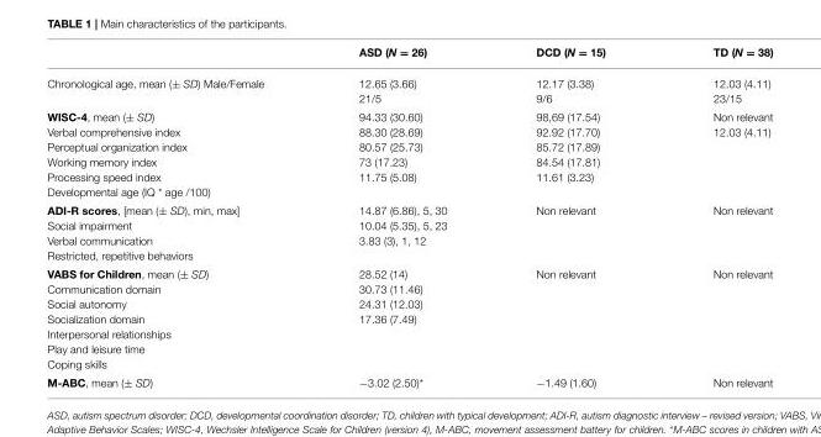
<table><thead><tr><td></td><td>ASD (N = 26)</td><td>DCD (N = 15)</td><td>TD (N = 38)</td></tr></thead><tbody><tr><td>Chronological age, mean (± SD) Male/Female</td><td>12.65 (3.66) 21/5</td><td>12.17 (3.38) 9/6</td><td>12.03 (4.11) 23/15</td></tr><tr><td>WISC-4, mean (± SD) Verbal comprehensive index Perceptual organization index Working memory index Processing speed index Developmental age (IQ * age /100)</td><td>94.33 (30.60) 88.30 (28.69) 80.57 (25.73) 73 (17.23) 11.75 (5.08)</td><td>98,69 (17.54) 92.92 (17.70) 85.72 (17.89) 84.54 (17.81) 11.61 (3.23)</td><td>Non relevant 12.03 (4.11)</td></tr><tr><td>ADI-R scores, [mean (± SD), min, max] Social impairment Verbal communication Restricted, repetitive behaviors</td><td>14.87 (6.86), 5, 30 10.04 (5.35), 5, 23 3.83 (3), 1, 12</td><td>Non relevant</td><td>Non relevant</td></tr><tr><td>VABS for Children, mean (± SD) Communication domain Social autonomy Socialization domain Interpersonal relationships Play and leisure time Coping skills</td><td>28.52 (14) 30.73 (11.46) 24.31 (12.03) 17.36 (7.49)</td><td>Non relevant</td><td>Non relevant</td></tr><tr><td>M-ABC, mean (± SD)</td><td>−3.02 (2.50)*</td><td>−1.49 (1.60)</td><td>Non relevant</td></tr></tbody></table>